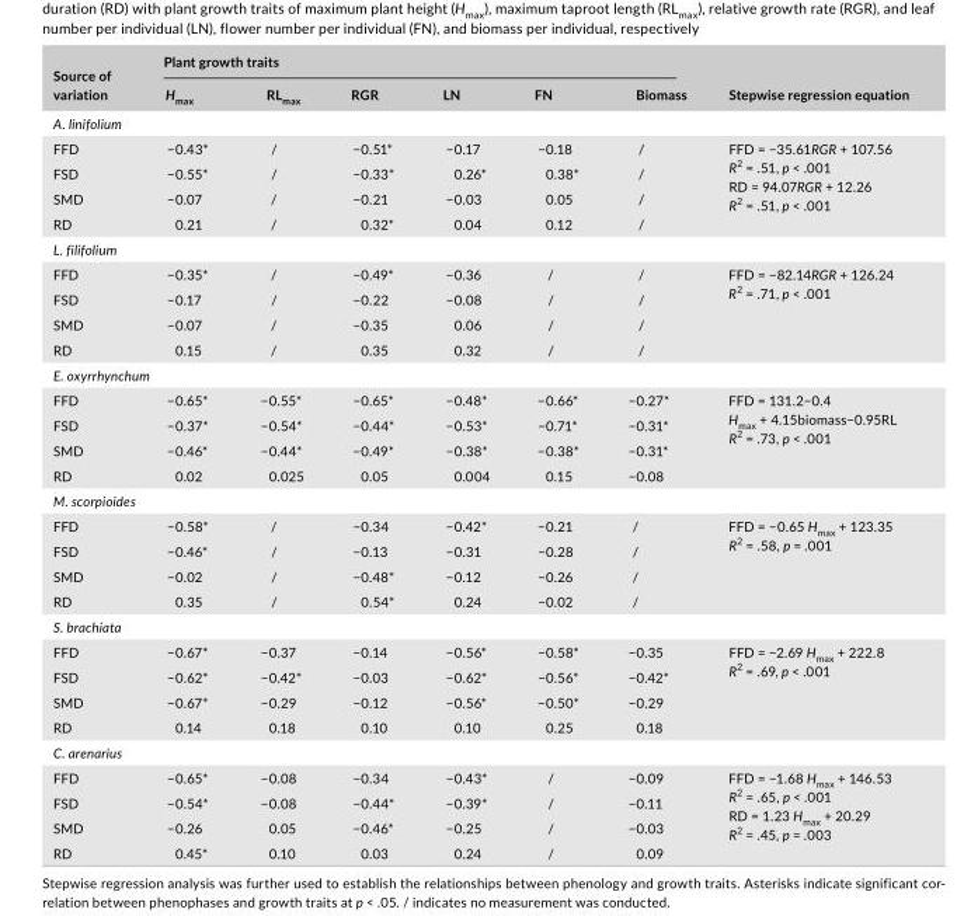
<table><thead><tr><td rowspan="2">Source of variation</td><td colspan="6">Plant growth traits</td><td rowspan="2">Stepwise regression equation</td></tr><tr><td>H<sub>max</sub></td><td>RL<sub>max</sub></td><td>RGR</td><td>LN</td><td>FN</td><td>Biomass</td></tr></thead><tbody><tr><td colspan="8">A. linifolium</td></tr><tr><td>FFD</td><td>−0.43*</td><td>/</td><td>−0.51*</td><td>−0.17</td><td>−0.18</td><td>/</td><td rowspan="4">FFD = −35.61RGR + 107.56 R<sup>2</sup> = .51, p &lt; .001 RD = 94.07RGR + 12.26 R<sup>2</sup> = .51, p &lt; .001</td></tr><tr><td>FSD</td><td>−0.55*</td><td>/</td><td>−0.33*</td><td>0.26*</td><td>0.38*</td><td>/</td></tr><tr><td>SMD</td><td>−0.07</td><td>/</td><td>−0.21</td><td>−0.03</td><td>0.05</td><td>/</td></tr><tr><td>RD</td><td>0.21</td><td>/</td><td>0.32*</td><td>0.04</td><td>0.12</td><td>/</td></tr><tr><td colspan="8">L. filifolium</td></tr><tr><td>FFD</td><td>−0.35*</td><td>/</td><td>−0.49*</td><td>−0.36</td><td>/</td><td>/</td><td rowspan="4">FFD = −82.14RGR + 126.24 R<sup>2</sup> = .71, p &lt; .001</td></tr><tr><td>FSD</td><td>−0.17</td><td>/</td><td>−0.22</td><td>−0.08</td><td>/</td><td>/</td></tr><tr><td>SMD</td><td>−0.07</td><td>/</td><td>−0.35</td><td>0.06</td><td>/</td><td>/</td></tr><tr><td>RD</td><td>0.15</td><td>/</td><td>0.35</td><td>0.32</td><td>/</td><td>/</td></tr><tr><td colspan="8">E. oxyrrhynchum</td></tr><tr><td>FFD</td><td>−0.65*</td><td>−0.55*</td><td>−0.65*</td><td>−0.48*</td><td>−0.66*</td><td>−0.27*</td><td rowspan="4">FFD = 131.2−0.4 H<sub>max</sub> + 4.15biomass−0.95RL R<sup>2</sup> = .73, p &lt; .001</td></tr><tr><td>FSD</td><td>−0.37*</td><td>−0.54*</td><td>−0.44*</td><td>−0.53*</td><td>−0.71*</td><td>−0.31*</td></tr><tr><td>SMD</td><td>−0.46*</td><td>−0.44*</td><td>−0.49*</td><td>−0.38*</td><td>−0.38*</td><td>−0.31*</td></tr><tr><td>RD</td><td>0.02</td><td>0.025</td><td>0.05</td><td>0.004</td><td>0.15</td><td>−0.08</td></tr><tr><td colspan="8">M. scorpioides</td></tr><tr><td>FFD</td><td>−0.58*</td><td>/</td><td>−0.34</td><td>−0.42*</td><td>−0.21</td><td>/</td><td rowspan="4">FFD = −0.65 H<sub>max</sub> + 123.35 R<sup>2</sup> = .58, p = .001</td></tr><tr><td>FSD</td><td>−0.46*</td><td>/</td><td>−0.13</td><td>−0.31</td><td>−0.28</td><td>/</td></tr><tr><td>SMD</td><td>−0.02</td><td>/</td><td>−0.48*</td><td>−0.12</td><td>−0.26</td><td>/</td></tr><tr><td>RD</td><td>0.35</td><td>/</td><td>0.54*</td><td>0.24</td><td>−0.02</td><td>/</td></tr><tr><td colspan="8">S. brachiata</td></tr><tr><td>FFD</td><td>−0.67*</td><td>−0.37</td><td>−0.14</td><td>−0.56*</td><td>−0.58*</td><td>−0.35</td><td rowspan="4">FFD = −2.69 H<sub>max</sub> + 222.8 R<sup>2</sup> = .69, p &lt; .001</td></tr><tr><td>FSD</td><td>−0.62*</td><td>−0.42*</td><td>−0.03</td><td>−0.62*</td><td>−0.56*</td><td>−0.42*</td></tr><tr><td>SMD</td><td>−0.67*</td><td>−0.29</td><td>−0.12</td><td>−0.56*</td><td>−0.50*</td><td>−0.29</td></tr><tr><td>RD</td><td>0.14</td><td>0.18</td><td>0.10</td><td>0.10</td><td>0.25</td><td>0.18</td></tr><tr><td colspan="8">C. arenarius</td></tr><tr><td>FFD</td><td>−0.65*</td><td>−0.08</td><td>−0.34</td><td>−0.43*</td><td>/</td><td>−0.09</td><td rowspan="4">FFD = −1.68 H<sub>max</sub> + 146.53 R<sup>2</sup> = .65, p &lt; .001 RD = 1.23 H<sub>max</sub> + 20.29 R<sup>2</sup> = .45, p = .003</td></tr><tr><td>FSD</td><td>−0.54*</td><td>−0.08</td><td>−0.44*</td><td>−0.39*</td><td>/</td><td>−0.11</td></tr><tr><td>SMD</td><td>−0.26</td><td>0.05</td><td>−0.46*</td><td>−0.25</td><td>/</td><td>−0.03</td></tr><tr><td>RD</td><td>0.45*</td><td>0.10</td><td>0.03</td><td>0.24</td><td>/</td><td>0.09</td></tr></tbody></table>